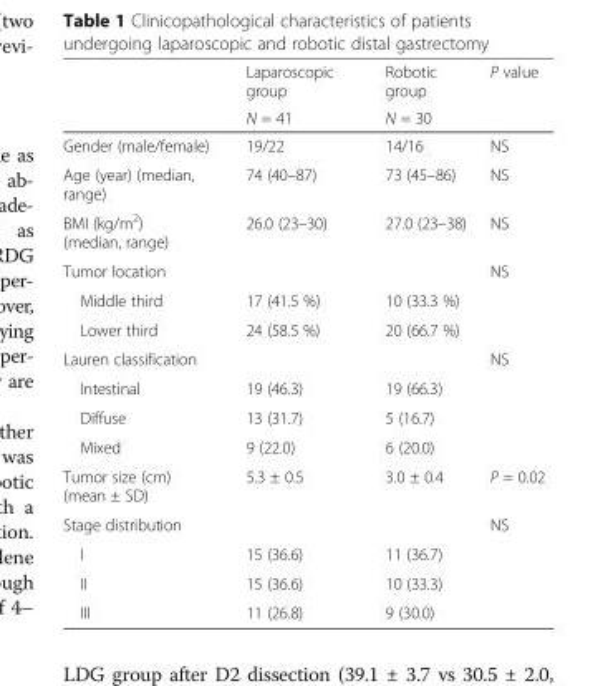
<table><thead><tr><td rowspan="2"></td><td rowspan="2">Laparoscopic group N = 41</td><td rowspan="2">Robotic group N = 30</td><td rowspan="2">P value</td></tr><tr></tr></thead><tbody><tr><td>Gender (male/female)</td><td>19/22</td><td>14/16</td><td>NS</td></tr><tr><td>Age (year) (median, range)</td><td>74 (40–87)</td><td>73 (45–86)</td><td>NS</td></tr><tr><td>BMI (kg/m<sup>2</sup>) (median, range)</td><td>26.0 (23–30)</td><td>27.0 (23–38)</td><td>NS</td></tr><tr><td>Tumor location</td><td></td><td></td><td>NS</td></tr><tr><td>Middle third</td><td>17 (41.5 %)</td><td>10 (33.3 %)</td><td rowspan="2"></td></tr><tr><td>Lower third</td><td>24 (58.5 %)</td><td>20 (66.7 %)</td></tr><tr><td>Lauren classification</td><td></td><td></td><td>NS</td></tr><tr><td>Intestinal</td><td>19 (46.3)</td><td>19 (66.3)</td><td rowspan="3"></td></tr><tr><td>Diffuse</td><td>13 (31.7)</td><td>5 (16.7)</td></tr><tr><td>Mixed</td><td>9 (22.0)</td><td>6 (20.0)</td></tr><tr><td>Tumor size (cm) (mean ± SD)</td><td>5.3 ± 0.5</td><td>3.0 ± 0.4</td><td>P = 0.02</td></tr><tr><td>Stage distribution</td><td></td><td></td><td>NS</td></tr><tr><td>I</td><td>15 (36.6)</td><td>11 (36.7)</td><td rowspan="3"></td></tr><tr><td>II</td><td>15 (36.6)</td><td>10 (33.3)</td></tr><tr><td>III</td><td>11 (26.8)</td><td>9 (30.0)</td></tr></tbody></table>